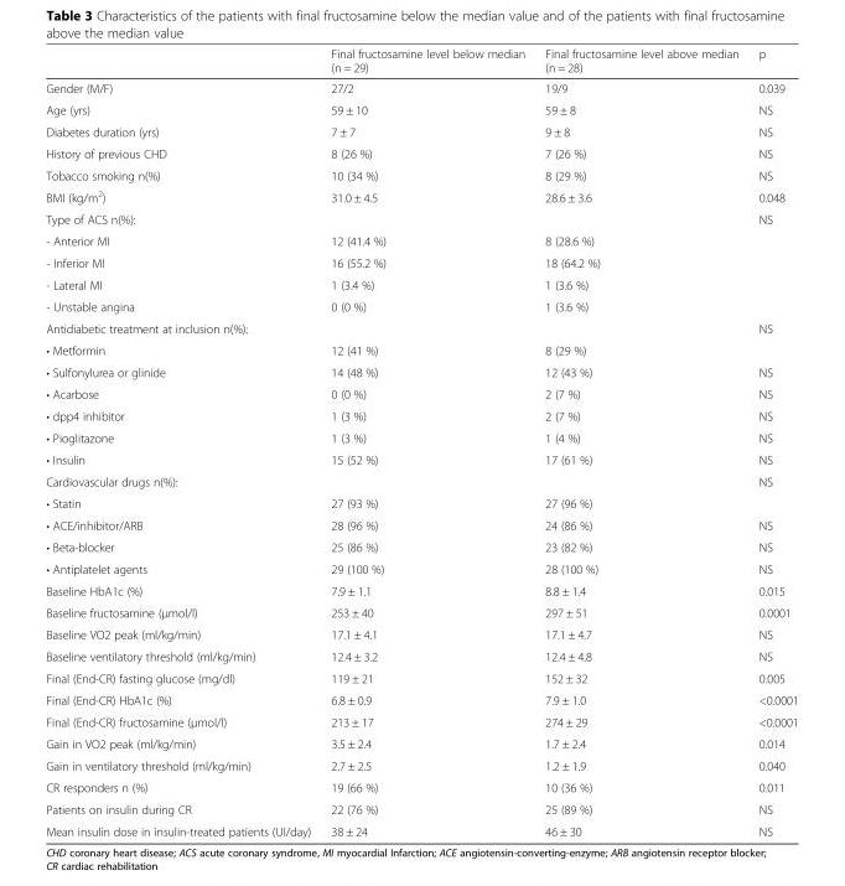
<table><thead><tr><td></td><td>Final fructosamine level below median (n = 29)</td><td>Final fructosamine level above median (n = 28)</td><td>p</td></tr></thead><tbody><tr><td>Gender (M/F)</td><td>27/2</td><td>19/9</td><td>0.039</td></tr><tr><td>Age (yrs)</td><td>59 ± 10</td><td>59 ± 8</td><td>NS</td></tr><tr><td>Diabetes duration (yrs)</td><td>7 ± 7</td><td>9 ± 8</td><td>NS</td></tr><tr><td>History of previous CHD</td><td>8 (26 %)</td><td>7 (26 %)</td><td>NS</td></tr><tr><td>Tobacco smoking n(%)</td><td>10 (34 %)</td><td>8 (29 %)</td><td>NS</td></tr><tr><td>BMI (kg/m<sup>2</sup>)</td><td>31.0 ± 4.5</td><td>28.6 ± 3.6</td><td>0.048</td></tr><tr><td colspan="3">Type of ACS n(%):</td><td rowspan="5">NS</td></tr><tr><td>- Anterior MI</td><td>12 (41.4 %)</td><td>8 (28.6 %)</td></tr><tr><td>- Inferior MI</td><td>16 (55.2 %)</td><td>18 (64.2 %)</td></tr><tr><td>- Lateral MI</td><td>1 (3.4 %)</td><td>1 (3.6 %)</td></tr><tr><td>- Unstable angina</td><td>0 (0 %)</td><td>1 (3.6 %)</td></tr><tr><td colspan="3">Antidiabetic treatment at inclusion n(%):</td><td rowspan="2">NS</td></tr><tr><td>• Metformin</td><td>12 (41 %)</td><td>8 (29 %)</td></tr><tr><td>• Sulfonylurea or glinide</td><td>14 (48 %)</td><td>12 (43 %)</td><td>NS</td></tr><tr><td>• Acarbose</td><td>0 (0 %)</td><td>2 (7 %)</td><td>NS</td></tr><tr><td>• dpp4 inhibitor</td><td>1 (3 %)</td><td>2 (7 %)</td><td>NS</td></tr><tr><td>• Pioglitazone</td><td>1 (3 %)</td><td>1 (4 %)</td><td>NS</td></tr><tr><td>• Insulin</td><td>15 (52 %)</td><td>17 (61 %)</td><td>NS</td></tr><tr><td colspan="3">Cardiovascular drugs n(%):</td><td rowspan="2">NS</td></tr><tr><td>• Statin</td><td>27 (93 %)</td><td>27 (96 %)</td></tr><tr><td>• ACE/inhibitor/ARB</td><td>28 (96 %)</td><td>24 (86 %)</td><td>NS</td></tr><tr><td>• Beta-blocker</td><td>25 (86 %)</td><td>23 (82 %)</td><td>NS</td></tr><tr><td>• Antiplatelet agents</td><td>29 (100 %)</td><td>28 (100 %)</td><td>NS</td></tr><tr><td>Baseline HbA1c (%)</td><td>7.9 ± 1.1</td><td>8.8 ± 1.4</td><td>0.015</td></tr><tr><td>Baseline fructosamine (μmol/l)</td><td>253 ± 40</td><td>297 ± 51</td><td>0.0001</td></tr><tr><td>Baseline VO2 peak (ml/kg/min)</td><td>17.1 ± 4.1</td><td>17.1 ± 4.7</td><td>NS</td></tr><tr><td>Baseline ventilatory threshold (ml/kg/min)</td><td>12.4 ± 3.2</td><td>12.4 ± 4.8</td><td>NS</td></tr><tr><td>Final (End-CR) fasting glucose (mg/dl)</td><td>119 ± 21</td><td>152 ± 32</td><td>0.005</td></tr><tr><td>Final (End-CR) HbA1c (%)</td><td>6.8 ± 0.9</td><td>7.9 ± 1.0</td><td>&lt;0.0001</td></tr><tr><td>Final (End-CR) fructosamine (μmol/l)</td><td>213 ± 17</td><td>274 ± 29</td><td>&lt;0.0001</td></tr><tr><td>Gain in VO2 peak (ml/kg/min)</td><td>3.5 ± 2.4</td><td>1.7 ± 2.4</td><td>0.014</td></tr><tr><td>Gain in ventilatory threshold (ml/kg/min)</td><td>2.7 ± 2.5</td><td>1.2 ± 1.9</td><td>0.040</td></tr><tr><td>CR responders n (%)</td><td>19 (66 %)</td><td>10 (36 %)</td><td>0.011</td></tr><tr><td>Patients on insulin during CR</td><td>22 (76 %)</td><td>25 (89 %)</td><td>NS</td></tr><tr><td>Mean insulin dose in insulin-treated patients (UI/day)</td><td>38 ± 24</td><td>46 ± 30</td><td>NS</td></tr></tbody></table>